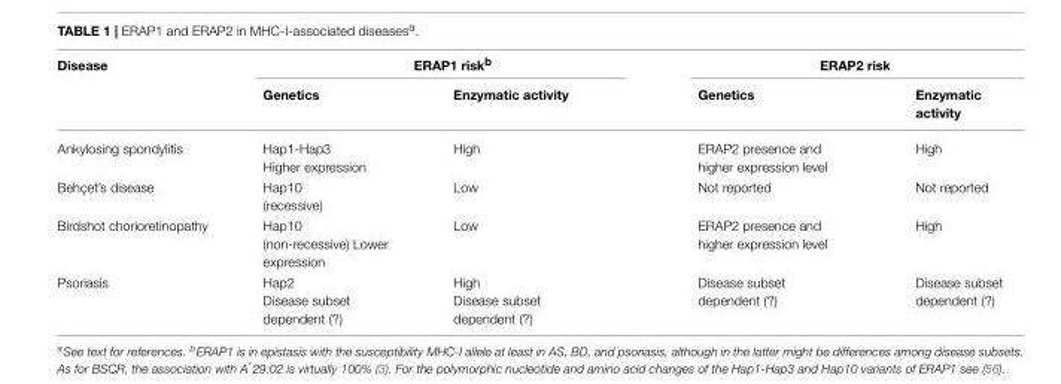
<table><thead><tr><td rowspan="2">Disease</td><td colspan="2">ERAP1 risk<sup>b</sup></td><td colspan="2">ERAP2 risk</td></tr><tr><td>Genetics</td><td>Enzymatic activity</td><td>Genetics</td><td>Enzymatic activity</td></tr></thead><tbody><tr><td>Ankylosing spondylitis</td><td>Hap1-Hap3 Higher expression</td><td>High</td><td>ERAP2 presence and higher expression level</td><td>High</td></tr><tr><td>Behçet’s disease</td><td>Hap10 (recessive)</td><td>Low</td><td>Not reported</td><td>Not reported</td></tr><tr><td>Birdshot chorioretinopathy</td><td>Hap10 (non-recessive) Lower expression</td><td>Low</td><td>ERAP2 presence and higher expression level</td><td>High</td></tr><tr><td>Psoriasis</td><td>Hap2 Disease subset dependent (?)</td><td>High Disease subset dependent (?)</td><td>Disease subset dependent (?)</td><td>Disease subset dependent (?)</td></tr></tbody></table>